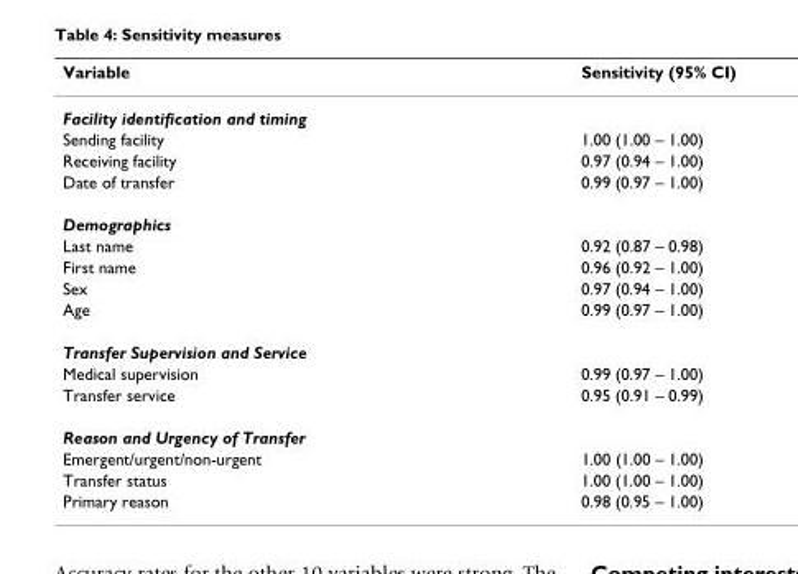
<table><thead><tr><td>Variable</td><td>Sensitivity (95% CI)</td></tr></thead><tbody><tr><td colspan="2">Facility identification and timing</td></tr><tr><td>Sending facility</td><td>1.00 (1.00 – 1.00)</td></tr><tr><td>Receiving facility</td><td>0.97 (0.94 – 1.00)</td></tr><tr><td>Date of transfer</td><td>0.99 (0.97 – 1.00)</td></tr><tr><td colspan="2">Demographics</td></tr><tr><td>Last name</td><td>0.92 (0.87 – 0.98)</td></tr><tr><td>First name</td><td>0.96 (0.92 – 1.00)</td></tr><tr><td>Sex</td><td>0.97 (0.94 – 1.00)</td></tr><tr><td>Age</td><td>0.99 (0.97 – 1.00)</td></tr><tr><td colspan="2">Transfer Supervision and Service</td></tr><tr><td>Medical supervision</td><td>0.99 (0.97 – 1.00)</td></tr><tr><td>Transfer service</td><td>0.95 (0.91 – 0.99)</td></tr><tr><td colspan="2">Reason and Urgency of Transfer</td></tr><tr><td>Emergent/urgent/non-urgent</td><td>1.00 (1.00 – 1.00)</td></tr><tr><td>Transfer status</td><td>1.00 (1.00 – 1.00)</td></tr><tr><td>Primary reason</td><td>0.98 (0.95 – 1.00)</td></tr></tbody></table>